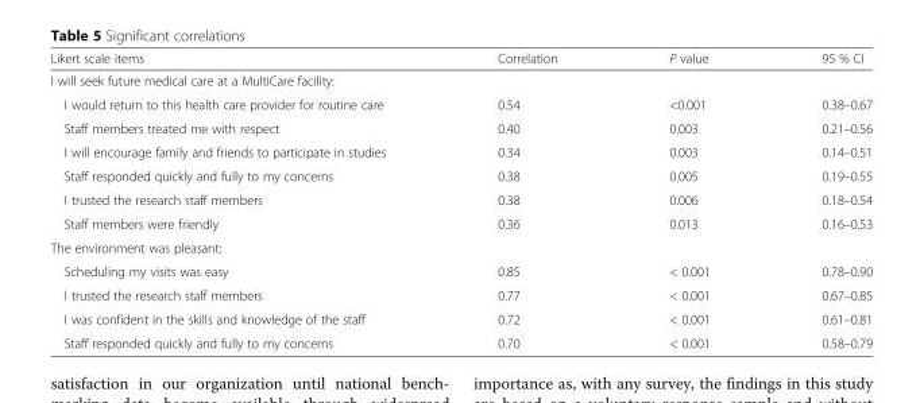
<table><thead><tr><td>Likert scale items</td><td>Correlation</td><td>P value</td><td>95 % CI</td></tr></thead><tbody><tr><td colspan="4">I will seek future medical care at a MultiCare facility:</td></tr><tr><td>I would return to this health care provider for routine care</td><td>0.54</td><td>&lt;0.001</td><td>0.38–0.67</td></tr><tr><td>Staff members treated me with respect</td><td>0.40</td><td>0.003</td><td>0.21–0.56</td></tr><tr><td>I will encourage family and friends to participate in studies</td><td>0.34</td><td>0.003</td><td>0.14–0.51</td></tr><tr><td>Staff responded quickly and fully to my concerns</td><td>0.38</td><td>0.005</td><td>0.19–0.55</td></tr><tr><td>I trusted the research staff members</td><td>0.38</td><td>0.006</td><td>0.18–0.54</td></tr><tr><td>Staff members were friendly</td><td>0.36</td><td>0.013</td><td>0.16–0.53</td></tr><tr><td colspan="4">The environment was pleasant:</td></tr><tr><td>Scheduling my visits was easy</td><td>0.85</td><td>&lt; 0.001</td><td>0.78–0.90</td></tr><tr><td>I trusted the research staff members</td><td>0.77</td><td>&lt; 0.001</td><td>0.67–0.85</td></tr><tr><td>I was confident in the skills and knowledge of the staff</td><td>0.72</td><td>&lt; 0.001</td><td>0.61–0.81</td></tr><tr><td>Staff responded quickly and fully to my concerns</td><td>0.70</td><td>&lt; 0.001</td><td>0.58–0.79</td></tr></tbody></table>